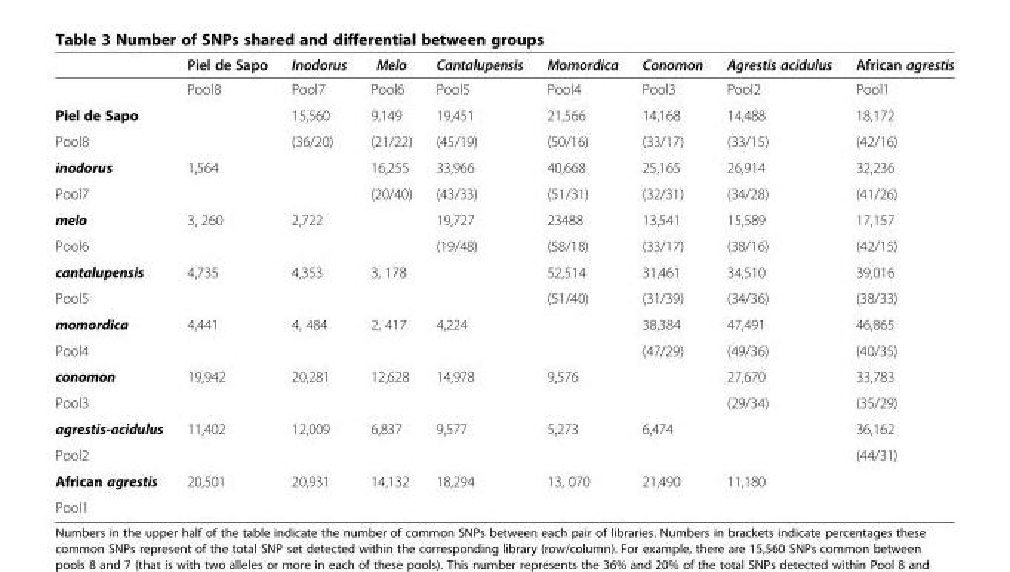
<table><thead><tr><td></td><td>Piel de Sapo</td><td>Inodorus</td><td>Melo</td><td>Cantalupensis</td><td>Momordica</td><td>Conomon</td><td>Agrestis acidulus</td><td>African agrestis</td></tr></thead><tbody><tr><td></td><td>Pool8</td><td>Pool7</td><td>Pool6</td><td>Pool5</td><td>Pool4</td><td>Pool3</td><td>Pool2</td><td>Pool1</td></tr><tr><td>Piel de Sapo</td><td></td><td>15,560</td><td>9,149</td><td>19,451</td><td>21,566</td><td>14,168</td><td>14,488</td><td>18,172</td></tr><tr><td>Pool8</td><td></td><td>(36/20)</td><td>(21/22)</td><td>(45/19)</td><td>(50/16)</td><td>(33/17)</td><td>(33/15)</td><td>(42/16)</td></tr><tr><td>inodorus</td><td>1,564</td><td></td><td>16,255</td><td>33,966</td><td>40,668</td><td>25,165</td><td>26,914</td><td>32,236</td></tr><tr><td>Pool7</td><td></td><td></td><td>(20/40)</td><td>(43/33)</td><td>(51/31)</td><td>(32/31)</td><td>(34/28)</td><td>(41/26)</td></tr><tr><td>melo</td><td>3, 260</td><td>2,722</td><td></td><td>19,727</td><td>23488</td><td>13,541</td><td>15,589</td><td>17,157</td></tr><tr><td>Pool6</td><td></td><td></td><td></td><td>(19/48)</td><td>(58/18)</td><td>(33/17)</td><td>(38/16)</td><td>(42/15)</td></tr><tr><td>cantalupensis</td><td>4,735</td><td>4,353</td><td>3, 178</td><td></td><td>52,514</td><td>31,461</td><td>34,510</td><td>39,016</td></tr><tr><td>Pool5</td><td></td><td></td><td></td><td></td><td>(51/40)</td><td>(31/39)</td><td>(34/36)</td><td>(38/33)</td></tr><tr><td>momordica</td><td>4,441</td><td>4, 484</td><td>2, 417</td><td>4,224</td><td></td><td>38,384</td><td>47,491</td><td>46,865</td></tr><tr><td>Pool4</td><td></td><td></td><td></td><td></td><td></td><td>(47/29)</td><td>(49/36)</td><td>(40/35)</td></tr><tr><td>conomon</td><td>19,942</td><td>20,281</td><td>12,628</td><td>14,978</td><td>9,576</td><td></td><td>27,670</td><td>33,783</td></tr><tr><td>Pool3</td><td></td><td></td><td></td><td></td><td></td><td></td><td>(29/34)</td><td>(35/29)</td></tr><tr><td>agrestis-acidulus</td><td>11,402</td><td>12,009</td><td>6,837</td><td>9,577</td><td>5,273</td><td>6,474</td><td></td><td>36,162</td></tr><tr><td>Pool2</td><td></td><td></td><td></td><td></td><td></td><td></td><td></td><td>(44/31)</td></tr><tr><td>African agrestis</td><td>20,501</td><td>20,931</td><td>14,132</td><td>18,294</td><td>13, 070</td><td>21,490</td><td>11,180</td><td></td></tr><tr><td>Pool1</td><td></td><td></td><td></td><td></td><td></td><td></td><td></td><td></td></tr></tbody></table>